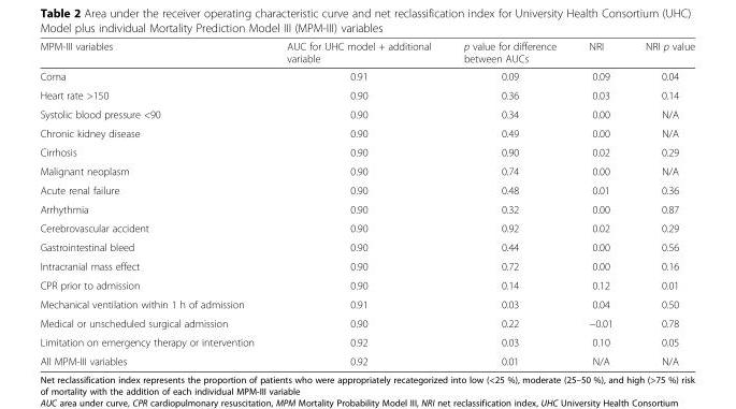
<table><thead><tr><td>MPM-III variables</td><td>AUC for UHC model + additional variable</td><td>p value for difference between AUCs</td><td>NRI</td><td>NRI p value</td></tr></thead><tbody><tr><td>Coma</td><td>0.91</td><td>0.09</td><td>0.09</td><td>0.04</td></tr><tr><td>Heart rate &gt;150</td><td>0.90</td><td>0.36</td><td>0.03</td><td>0.14</td></tr><tr><td>Systolic blood pressure &lt;90</td><td>0.90</td><td>0.34</td><td>0.00</td><td>N/A</td></tr><tr><td>Chronic kidney disease</td><td>0.90</td><td>0.49</td><td>0.00</td><td>N/A</td></tr><tr><td>Cirrhosis</td><td>0.90</td><td>0.90</td><td>0.02</td><td>0.29</td></tr><tr><td>Malignant neoplasm</td><td>0.90</td><td>0.74</td><td>0.00</td><td>N/A</td></tr><tr><td>Acute renal failure</td><td>0.90</td><td>0.48</td><td>0.01</td><td>0.36</td></tr><tr><td>Arrhythmia</td><td>0.90</td><td>0.32</td><td>0.00</td><td>0.87</td></tr><tr><td>Cerebrovascular accident</td><td>0.90</td><td>0.92</td><td>0.02</td><td>0.29</td></tr><tr><td>Gastrointestinal bleed</td><td>0.90</td><td>0.44</td><td>0.00</td><td>0.56</td></tr><tr><td>Intracranial mass effect</td><td>0.90</td><td>0.72</td><td>0.00</td><td>0.16</td></tr><tr><td>CPR prior to admission</td><td>0.90</td><td>0.14</td><td>0.12</td><td>0.01</td></tr><tr><td>Mechanical ventilation within 1 h of admission</td><td>0.91</td><td>0.03</td><td>0.04</td><td>0.50</td></tr><tr><td>Medical or unscheduled surgical admission</td><td>0.90</td><td>0.22</td><td>−0.01</td><td>0.78</td></tr><tr><td>Limitation on emergency therapy or intervention</td><td>0.92</td><td>0.03</td><td>0.10</td><td>0.05</td></tr><tr><td>All MPM-III variables</td><td>0.92</td><td>0.01</td><td>N/A</td><td>N/A</td></tr></tbody></table>